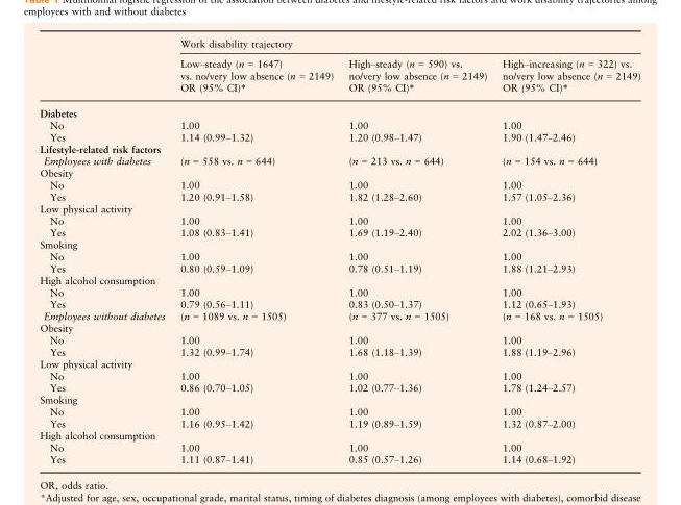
<table><thead><tr><td rowspan="3"></td><td colspan="3">Work disability trajectory</td></tr><tr><td rowspan="2">Low–steady (n = 1647) vs. no/very low absence (n = 2149) OR (95% CI)*</td><td rowspan="2">High–steady (n = 590) vs. no/very low absence (n = 2149) OR (95% CI)*</td><td rowspan="2">High–increasing (n = 322) vs. no/very low absence (n = 2149) OR (95% CI)*</td></tr><tr></tr></thead><tbody><tr><td colspan="4">Diabetes</td></tr><tr><td>No</td><td>1.00</td><td>1.00</td><td>1.00</td></tr><tr><td>Yes</td><td>1.14 (0.99–1.32)</td><td>1.20 (0.98–1.47)</td><td>1.90 (1.47–2.46)</td></tr><tr><td colspan="4">Lifestyle-related risk factors</td></tr><tr><td>Employees with diabetes</td><td>(n = 558 vs. n = 644)</td><td>(n = 213 vs. n = 644)</td><td>(n = 154 vs. n = 644)</td></tr><tr><td colspan="4">Obesity</td></tr><tr><td>No</td><td>1.00</td><td>1.00</td><td>1.00</td></tr><tr><td>Yes</td><td>1.20 (0.91–1.58)</td><td>1.82 (1.28–2.60)</td><td>1.57 (1.05–2.36)</td></tr><tr><td colspan="4">Low physical activity</td></tr><tr><td>No</td><td>1.00</td><td>1.00</td><td>1.00</td></tr><tr><td>Yes</td><td>1.08 (0.83–1.41)</td><td>1.69 (1.19–2.40)</td><td>2.02 (1.36–3.00)</td></tr><tr><td colspan="4">Smoking</td></tr><tr><td>No</td><td>1.00</td><td>1.00</td><td>1.00</td></tr><tr><td>Yes</td><td>0.80 (0.59–1.09)</td><td>0.78 (0.51–1.19)</td><td>1.88 (1.21–2.93)</td></tr><tr><td colspan="4">High alcohol consumption</td></tr><tr><td>No</td><td>1.00</td><td>1.00</td><td>1.00</td></tr><tr><td>Yes</td><td>0.79 (0.56–1.11)</td><td>0.83 (0.50–1.37)</td><td>1.12 (0.65–1.93)</td></tr><tr><td>Employees without diabetes</td><td>(n = 1089 vs. n = 1505)</td><td>(n = 377 vs. n = 1505)</td><td>(n = 168 vs. n = 1505)</td></tr><tr><td colspan="4">Obesity</td></tr><tr><td>No</td><td>1.00</td><td>1.00</td><td>1.00</td></tr><tr><td>Yes</td><td>1.32 (0.99–1.74)</td><td>1.68 (1.18–1.39)</td><td>1.88 (1.19–2.96)</td></tr><tr><td colspan="4">Low physical activity</td></tr><tr><td>No</td><td>1.00</td><td>1.00</td><td>1.00</td></tr><tr><td>Yes</td><td>0.86 (0.70–1.05)</td><td>1.02 (0.77–1.36)</td><td>1.78 (1.24–2.57)</td></tr><tr><td colspan="4">Smoking</td></tr><tr><td>No</td><td>1.00</td><td>1.00</td><td>1.00</td></tr><tr><td>Yes</td><td>1.16 (0.95–1.42)</td><td>1.19 (0.89–1.59)</td><td>1.32 (0.87–2.00)</td></tr><tr><td colspan="4">High alcohol consumption</td></tr><tr><td>No</td><td>1.00</td><td>1.00</td><td>1.00</td></tr><tr><td>Yes</td><td>1.11 (0.87–1.41)</td><td>0.85 (0.57–1.26)</td><td>1.14 (0.68–1.92)</td></tr></tbody></table>